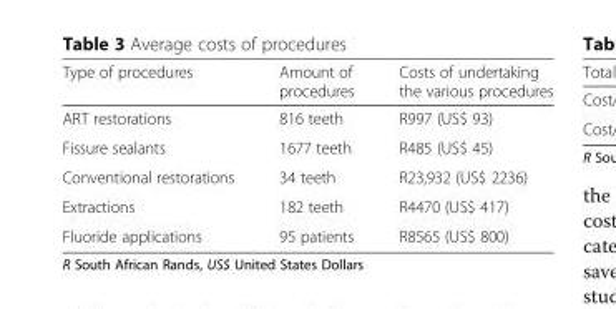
<table><thead><tr><td>Type of procedures</td><td>Amount of procedures</td><td>Costs of undertaking the various procedures</td></tr></thead><tbody><tr><td>ART restorations</td><td>816 teeth</td><td>R997 (US$ 93)</td></tr><tr><td>Fissure sealants</td><td>1677 teeth</td><td>R485 (US$ 45)</td></tr><tr><td>Conventional restorations</td><td>34 teeth</td><td>R23,932 (US$ 2236)</td></tr><tr><td>Extractions</td><td>182 teeth</td><td>R4470 (US$ 417)</td></tr><tr><td>Fluoride applications</td><td>95 patients</td><td>R8565 (US$ 800)</td></tr></tbody></table>